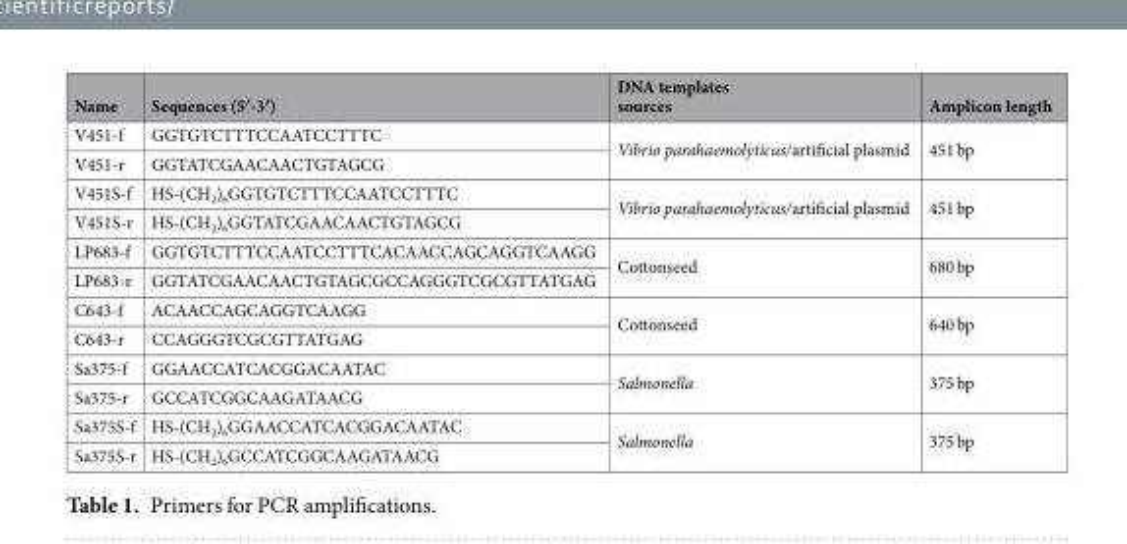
<table><thead><tr><td>Name</td><td>Sequences (5′-3′)</td><td>DNA templates sources</td><td>Amplicon length</td></tr></thead><tbody><tr><td>V451-f</td><td>GGTGTCTTTCCAATCCTTTC</td><td rowspan="2">Vibrio parahaemolyticus/artificial plasmid</td><td rowspan="2">451 bp</td></tr><tr><td>V451-r</td><td>GGTATCGAACAACTGTAGCG</td></tr><tr><td>V451S-f</td><td>HS-(CH<sub>2</sub>)<sub>6</sub>GGTGTCTTTCCAATCCTTTC</td><td rowspan="2">Vibrio parahaemolyticus/artificial plasmid</td><td rowspan="2">451 bp</td></tr><tr><td>V451S-r</td><td>HS-(CH<sub>2</sub>)<sub>6</sub>GGTATCGAACAACTGTAGCG</td></tr><tr><td>LP683-f</td><td>GGTGTCTTTCCAATCCTTTCACAACCAGCAGGTCAAGG</td><td rowspan="2">Cottonseed</td><td rowspan="2">680 bp</td></tr><tr><td>LP683-r</td><td>GGTATCGAACAACTGTAGCGCCAGGGTCGCGTTATGAG</td></tr><tr><td>C643-f</td><td>ACAACCAGCAGGTCAAGG</td><td rowspan="2">Cottonseed</td><td rowspan="2">640 bp</td></tr><tr><td>C643-r</td><td>CCAGGGTCGCGTTATGAG</td></tr><tr><td>Sa375-f</td><td>GGAACCATCACGGACAATAC</td><td rowspan="2">Salmonella</td><td rowspan="2">375 bp</td></tr><tr><td>Sa375-r</td><td>GCCATCGGCAAGATAACG</td></tr><tr><td>Sa375S-f</td><td>HS-(CH<sub>2</sub>)<sub>6</sub>GGAACCATCACGGACAATAC</td><td rowspan="2">Salmonella</td><td rowspan="2">375 bp</td></tr><tr><td>Sa375S-r</td><td>HS-(CH<sub>2</sub>)<sub>6</sub>GCCATCGGCAAGATAACG</td></tr></tbody></table>